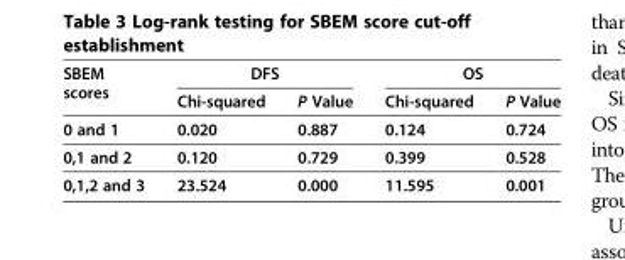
<table><thead><tr><td rowspan="2">SBEM scores</td><td colspan="2">DFS</td><td colspan="2">OS</td></tr><tr><td>Chi-squared</td><td>P Value</td><td>Chi-squared</td><td>P Value</td></tr></thead><tbody><tr><td>0 and 1</td><td>0.020</td><td>0.887</td><td>0.124</td><td>0.724</td></tr><tr><td>0,1 and 2</td><td>0.120</td><td>0.729</td><td>0.399</td><td>0.528</td></tr><tr><td>0,1,2 and 3</td><td>23.524</td><td>0.000</td><td>11.595</td><td>0.001</td></tr></tbody></table>